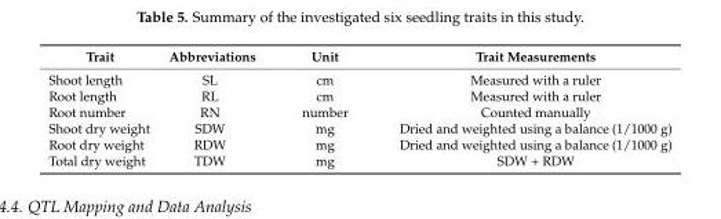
<table><thead><tr><td>Trait</td><td>Abbreviations</td><td>Unit</td><td>Trait Measurements</td></tr></thead><tbody><tr><td>Shoot length</td><td>SL</td><td>cm</td><td>Measured with a ruler</td></tr><tr><td>Root length</td><td>RL</td><td>cm</td><td>Measured with a ruler</td></tr><tr><td>Root number</td><td>RN</td><td>number</td><td>Counted manually</td></tr><tr><td>Shoot dry weight</td><td>SDW</td><td>mg</td><td>Dried and weighted using a balance (1/1000 g)</td></tr><tr><td>Root dry weight</td><td>RDW</td><td>mg</td><td>Dried and weighted using a balance (1/1000 g)</td></tr><tr><td>Total dry weight</td><td>TDW</td><td>mg</td><td>SDW + RDW</td></tr></tbody></table>